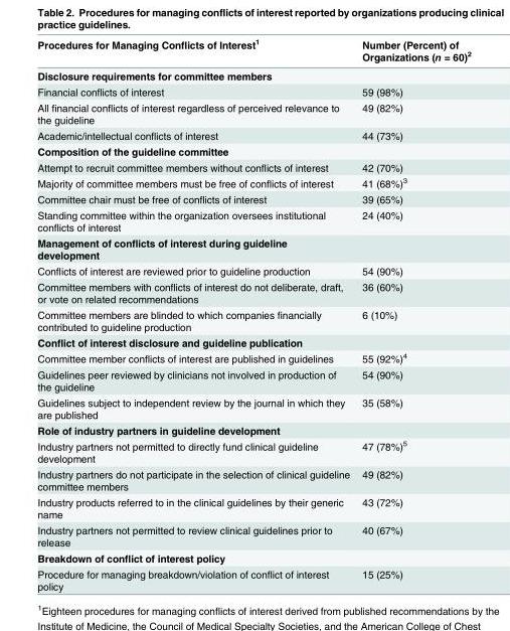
<table><thead><tr><td>Procedures for Managing Conflicts of Interest<sup>1</sup></td><td>Number (Percent) of Organizations (n = 60)<sup>2</sup></td></tr></thead><tbody><tr><td colspan="2">Disclosure requirements for committee members</td></tr><tr><td>Financial conflicts of interest</td><td>59 (98%)</td></tr><tr><td>All financial conflicts of interest regardless of perceived relevance to the guideline</td><td>49 (82%)</td></tr><tr><td>Academic/intellectual conflicts of interest</td><td>44 (73%)</td></tr><tr><td colspan="2">Composition of the guideline committee</td></tr><tr><td>Attempt to recruit committee members without conflicts of interest</td><td>42 (70%)</td></tr><tr><td>Majority of committee members must be free of conflicts of interest</td><td>41 (68%)<sup>3</sup></td></tr><tr><td>Committee chair must be free of conflicts of interest</td><td>39 (65%)</td></tr><tr><td>Standing committee within the organization oversees institutional conflicts of interest</td><td>24 (40%)</td></tr><tr><td colspan="2">Management of conflicts of interest during guideline development</td></tr><tr><td>Conflicts of interest are reviewed prior to guideline production</td><td>54 (90%)</td></tr><tr><td>Committee members with conflicts of interest do not deliberate, draft, or vote on related recommendations</td><td>36 (60%)</td></tr><tr><td>Committee members are blinded to which companies financially contributed to guideline production</td><td>6 (10%)</td></tr><tr><td colspan="2">Conflict of interest disclosure and guideline publication</td></tr><tr><td>Committee member conflicts of interest are published in guidelines</td><td>55 (92%)<sup>4</sup></td></tr><tr><td>Guidelines peer reviewed by clinicians not involved in production of the guideline</td><td>54 (90%)</td></tr><tr><td>Guidelines subject to independent review by the journal in which they are published</td><td>35 (58%)</td></tr><tr><td colspan="2">Role of industry partners in guideline development</td></tr><tr><td>Industry partners not permitted to directly fund clinical guideline development</td><td>47 (78%)<sup>5</sup></td></tr><tr><td>Industry partners do not participate in the selection of clinical guideline committee members</td><td>49 (82%)</td></tr><tr><td>Industry products referred to in the clinical guidelines by their generic name</td><td>43 (72%)</td></tr><tr><td>Industry partners not permitted to review clinical guidelines prior to release</td><td>40 (67%)</td></tr><tr><td colspan="2">Breakdown of conflict of interest policy</td></tr><tr><td>Procedure for managing breakdown/violation of conflict of interest policy</td><td>15 (25%)</td></tr></tbody></table>